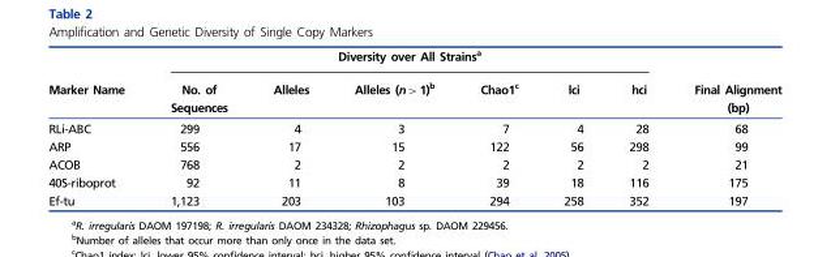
<table><thead><tr><td rowspan="2">Marker Name</td><td colspan="6">Diversity over All Strains<sup>a</sup></td><td rowspan="2">Final Alignment (bp)</td></tr><tr><td>No. of Sequences</td><td>Alleles</td><td>Alleles (n&gt; 1)<sup>b</sup></td><td>Chao1<sup>c</sup></td><td>lci</td><td>hci</td></tr></thead><tbody><tr><td>RLi-ABC</td><td>299</td><td>4</td><td>3</td><td>7</td><td>4</td><td>28</td><td>68</td></tr><tr><td>ARP</td><td>556</td><td>17</td><td>15</td><td>122</td><td>56</td><td>298</td><td>99</td></tr><tr><td>ACOB</td><td>768</td><td>2</td><td>2</td><td>2</td><td>2</td><td>2</td><td>21</td></tr><tr><td>40S-riboprot</td><td>92</td><td>11</td><td>8</td><td>39</td><td>18</td><td>116</td><td>175</td></tr><tr><td>Ef-tu</td><td>1,123</td><td>203</td><td>103</td><td>294</td><td>258</td><td>352</td><td>197</td></tr></tbody></table>